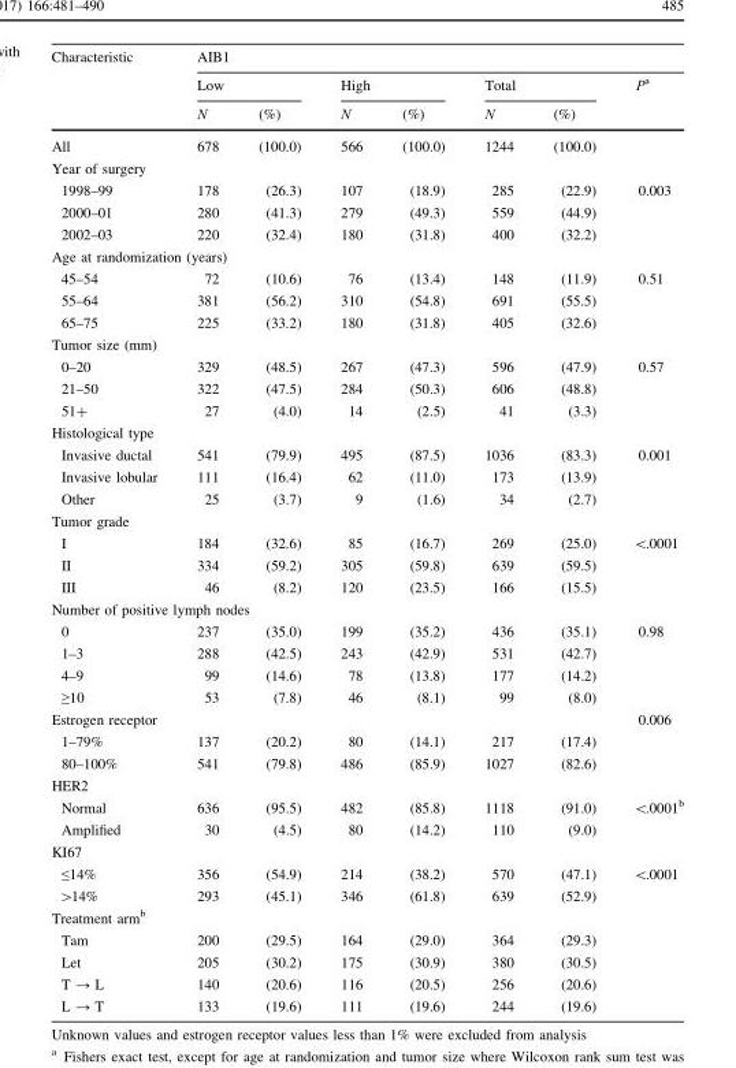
<table><thead><tr><td rowspan="3">Characteristic</td><td colspan="7">AIB1</td></tr><tr><td colspan="2">Low</td><td colspan="2">High</td><td colspan="2">Total</td><td rowspan="2">P<sup>a</sup></td></tr><tr><td>N</td><td>(%)</td><td>N</td><td>(%)</td><td>N</td><td>(%)</td></tr></thead><tbody><tr><td>All</td><td>678</td><td>(100.0)</td><td>566</td><td>(100.0)</td><td>1244</td><td>(100.0)</td><td></td></tr><tr><td colspan="8">Year of surgery</td></tr><tr><td>1998–99</td><td>178</td><td>(26.3)</td><td>107</td><td>(18.9)</td><td>285</td><td>(22.9)</td><td>0.003</td></tr><tr><td>2000–01</td><td>280</td><td>(41.3)</td><td>279</td><td>(49.3)</td><td>559</td><td>(44.9)</td><td></td></tr><tr><td>2002–03</td><td>220</td><td>(32.4)</td><td>180</td><td>(31.8)</td><td>400</td><td>(32.2)</td><td></td></tr><tr><td colspan="8">Age at randomization (years)</td></tr><tr><td>45–54</td><td>72</td><td>(10.6)</td><td>76</td><td>(13.4)</td><td>148</td><td>(11.9)</td><td>0.51</td></tr><tr><td>55–64</td><td>381</td><td>(56.2)</td><td>310</td><td>(54.8)</td><td>691</td><td>(55.5)</td><td></td></tr><tr><td>65–75</td><td>225</td><td>(33.2)</td><td>180</td><td>(31.8)</td><td>405</td><td>(32.6)</td><td></td></tr><tr><td colspan="8">Tumor size (mm)</td></tr><tr><td>0–20</td><td>329</td><td>(48.5)</td><td>267</td><td>(47.3)</td><td>596</td><td>(47.9)</td><td>0.57</td></tr><tr><td>21–50</td><td>322</td><td>(47.5)</td><td>284</td><td>(50.3)</td><td>606</td><td>(48.8)</td><td></td></tr><tr><td>51+</td><td>27</td><td>(4.0)</td><td>14</td><td>(2.5)</td><td>41</td><td>(3.3)</td><td></td></tr><tr><td colspan="8">Histological type</td></tr><tr><td>Invasive ductal</td><td>541</td><td>(79.9)</td><td>495</td><td>(87.5)</td><td>1036</td><td>(83.3)</td><td>0.001</td></tr><tr><td>Invasive lobular</td><td>111</td><td>(16.4)</td><td>62</td><td>(11.0)</td><td>173</td><td>(13.9)</td><td></td></tr><tr><td>Other</td><td>25</td><td>(3.7)</td><td>9</td><td>(1.6)</td><td>34</td><td>(2.7)</td><td></td></tr><tr><td colspan="8">Tumor grade</td></tr><tr><td>I</td><td>184</td><td>(32.6)</td><td>85</td><td>(16.7)</td><td>269</td><td>(25.0)</td><td>&lt;.0001</td></tr><tr><td>II</td><td>334</td><td>(59.2)</td><td>305</td><td>(59.8)</td><td>639</td><td>(59.5)</td><td></td></tr><tr><td>III</td><td>46</td><td>(8.2)</td><td>120</td><td>(23.5)</td><td>166</td><td>(15.5)</td><td></td></tr><tr><td colspan="8">Number of positive lymph nodes</td></tr><tr><td>0</td><td>237</td><td>(35.0)</td><td>199</td><td>(35.2)</td><td>436</td><td>(35.1)</td><td>0.98</td></tr><tr><td>1–3</td><td>288</td><td>(42.5)</td><td>243</td><td>(42.9)</td><td>531</td><td>(42.7)</td><td></td></tr><tr><td>4–9</td><td>99</td><td>(14.6)</td><td>78</td><td>(13.8)</td><td>177</td><td>(14.2)</td><td></td></tr><tr><td>≥10</td><td>53</td><td>(7.8)</td><td>46</td><td>(8.1)</td><td>99</td><td>(8.0)</td><td></td></tr><tr><td>Estrogen receptor</td><td></td><td></td><td></td><td></td><td></td><td></td><td>0.006</td></tr><tr><td>1–79%</td><td>137</td><td>(20.2)</td><td>80</td><td>(14.1)</td><td>217</td><td>(17.4)</td><td></td></tr><tr><td>80–100%</td><td>541</td><td>(79.8)</td><td>486</td><td>(85.9)</td><td>1027</td><td>(82.6)</td><td></td></tr><tr><td colspan="8">HER2</td></tr><tr><td>Normal</td><td>636</td><td>(95.5)</td><td>482</td><td>(85.8)</td><td>1118</td><td>(91.0)</td><td>&lt;.0001<sup>b</sup></td></tr><tr><td>Amplified</td><td>30</td><td>(4.5)</td><td>80</td><td>(14.2)</td><td>110</td><td>(9.0)</td><td></td></tr><tr><td colspan="8">KI67</td></tr><tr><td>≤14%</td><td>356</td><td>(54.9)</td><td>214</td><td>(38.2)</td><td>570</td><td>(47.1)</td><td>&lt;.0001</td></tr><tr><td>&gt;14%</td><td>293</td><td>(45.1)</td><td>346</td><td>(61.8)</td><td>639</td><td>(52.9)</td><td></td></tr><tr><td colspan="8">Treatment arm<sup>b</sup></td></tr><tr><td>Tam</td><td>200</td><td>(29.5)</td><td>164</td><td>(29.0)</td><td>364</td><td>(29.3)</td><td></td></tr><tr><td>Let</td><td>205</td><td>(30.2)</td><td>175</td><td>(30.9)</td><td>380</td><td>(30.5)</td><td></td></tr><tr><td>T → L</td><td>140</td><td>(20.6)</td><td>116</td><td>(20.5)</td><td>256</td><td>(20.6)</td><td></td></tr><tr><td>L → T</td><td>133</td><td>(19.6)</td><td>111</td><td>(19.6)</td><td>244</td><td>(19.6)</td><td></td></tr></tbody></table>